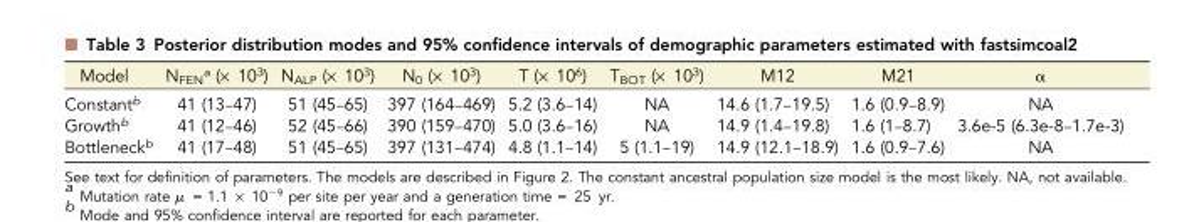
<table><thead><tr><td>Model</td><td>N<sub>FEN</sub><sup>a</sup> (× 10<sup>3</sup>)</td><td>N<sub>ALP</sub> (× 10<sup>3</sup>)</td><td>N<sub>0</sub> (× 10<sup>3</sup>)</td><td>T (× 10<sup>6</sup>)</td><td>T<sub>BOT</sub> (× 10<sup>3</sup>)</td><td>M12</td><td>M21</td><td>α</td></tr></thead><tbody><tr><td>Constant<sup>b</sup></td><td>41 (13–47)</td><td>51 (45–65)</td><td>397 (164–469)</td><td>5.2 (3.6–14)</td><td>NA</td><td>14.6 (1.7–19.5)</td><td>1.6 (0.9–8.9)</td><td>NA</td></tr><tr><td>Growth<sup>b</sup></td><td>41 (12–46)</td><td>52 (45–66)</td><td>390 (159–470)</td><td>5.0 (3.6–16)</td><td>NA</td><td>14.9 (1.4–19.8)</td><td>1.6 (1–8.7)</td><td>3.6e-5 (6.3e-8–1.7e-3)</td></tr><tr><td>Bottleneck<sup>b</sup></td><td>41 (17–48)</td><td>51 (45–65)</td><td>397 (131–474)</td><td>4.8 (1.1–14)</td><td>5 (1.1–19)</td><td>14.9 (12.1–18.9)</td><td>1.6 (0.9–7.6)</td><td>NA</td></tr></tbody></table>